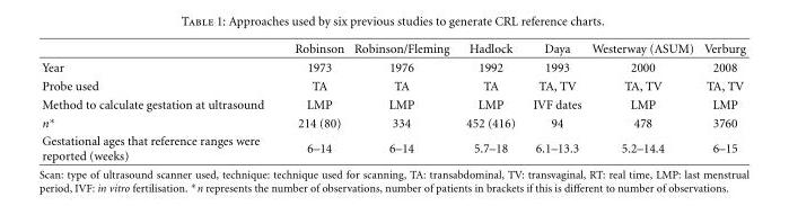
<table><thead><tr><td></td><td>Robinson</td><td>Robinson/Fleming</td><td>Hadlock</td><td>Daya</td><td>Westerway (ASUM)</td><td>Verburg</td></tr></thead><tbody><tr><td>Year</td><td>1973</td><td>1976</td><td>1992</td><td>1993</td><td>2000</td><td>2008</td></tr><tr><td>Probe used</td><td>TA</td><td>TA</td><td>TA</td><td>TA, TV</td><td>TA, TV</td><td>TA, TV</td></tr><tr><td>Method to calculate gestation at ultrasound</td><td>LMP</td><td>LMP</td><td>LMP</td><td>IVF dates</td><td>LMP</td><td>LMP</td></tr><tr><td>n∗</td><td>214 (80)</td><td>334</td><td>452 (416)</td><td>94</td><td>478</td><td>3760</td></tr><tr><td>Gestational ages that reference ranges were reported (weeks)</td><td>6–14</td><td>6–14</td><td>5.7–18</td><td>6.1–13.3</td><td>5.2–14.4</td><td>6–15</td></tr></tbody></table>